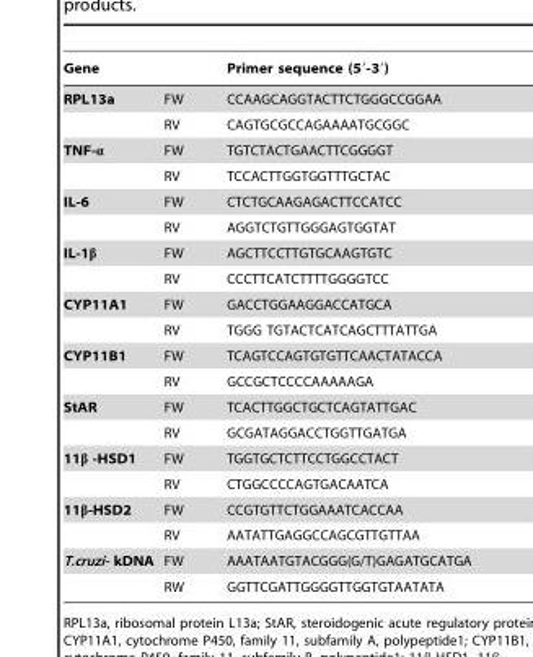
<table><thead><tr><td>Gene</td><td></td><td>Primer sequence (5′-3′)</td></tr></thead><tbody><tr><td rowspan="2">RPL13a</td><td>FW</td><td>CCAAGCAGGTACTTCTGGGCCGGAA</td></tr><tr><td>RV</td><td>CAGTGCGCCAGAAAATGCGGC</td></tr><tr><td rowspan="2">TNF-α</td><td>FW</td><td>TGTCTACTGAACTTCGGGGT</td></tr><tr><td>RV</td><td>TCCACTTGGTGGTTTGCTAC</td></tr><tr><td rowspan="2">IL-6</td><td>FW</td><td>CTCTGCAAGAGACTTCCATCC</td></tr><tr><td>RV</td><td>AGGTCTGTTGGGAGTGGTAT</td></tr><tr><td rowspan="2">IL-1β</td><td>FW</td><td>AGCTTCCTTGTGCAAGTGTC</td></tr><tr><td>RV</td><td>CCCTTCATCTTTTGGGGTCC</td></tr><tr><td rowspan="2">CYP11A1</td><td>FW</td><td>GACCTGGAAGGACCATGCA</td></tr><tr><td>RV</td><td>TGGG TGTACTCATCAGCTTTATTGA</td></tr><tr><td rowspan="2">CYP11B1</td><td>FW</td><td>TCAGTCCAGTGTGTTCAACTATACCA</td></tr><tr><td>RV</td><td>GCCGCTCCCCAAAAAGA</td></tr><tr><td rowspan="2">StAR</td><td>FW</td><td>TCACTTGGCTGCTCAGTATTGAC</td></tr><tr><td>RV</td><td>GCGATAGGACCTGGTTGATGA</td></tr><tr><td rowspan="2">11β -HSD1</td><td>FW</td><td>TGGTGCTCTTCCTGGCCTACT</td></tr><tr><td>RV</td><td>CTGGCCCCAGTGACAATCA</td></tr><tr><td rowspan="2">11β-HSD2</td><td>FW</td><td>CCGTGTTCTGGAAATCACCAA</td></tr><tr><td>RV</td><td>AATATTGAGGCCAGCGTTGTTAA</td></tr><tr><td rowspan="2">T.cruzi- kDNA</td><td>FW</td><td>AAATAATGTACGGG(G/T)GAGATGCATGA</td></tr><tr><td>RW</td><td>GGTTCGATTGGGGTTGGTGTAATATA</td></tr></tbody></table>